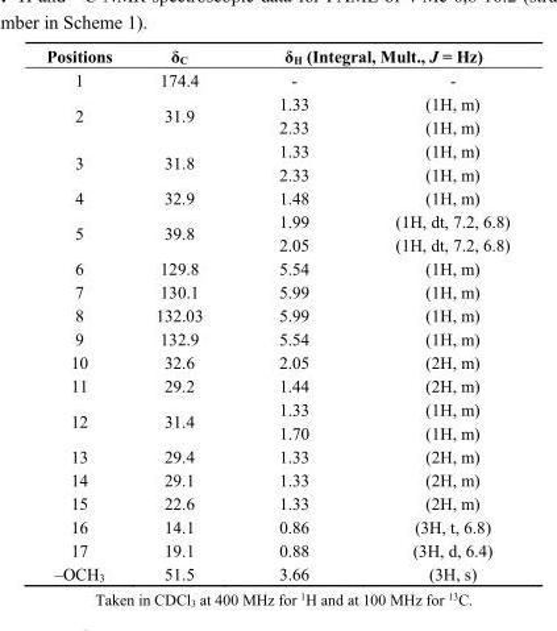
<table><thead><tr><td rowspan="2">Positions 1</td><td rowspan="2">δ<sub>C</sub> 174.4</td><td colspan="2">δ<sub>H</sub> (Integral, Mult., J = Hz)</td></tr><tr><td>-</td><td>-</td></tr></thead><tbody><tr><td rowspan="2">2</td><td rowspan="2">31.9</td><td>1.33</td><td>(1H, m)</td></tr><tr><td>2.33</td><td>(1H, m)</td></tr><tr><td rowspan="2">3</td><td rowspan="2">31.8</td><td>1.33</td><td>(1H, m)</td></tr><tr><td>2.33</td><td>(1H, m)</td></tr><tr><td>4</td><td>32.9</td><td>1.48</td><td>(1H, m)</td></tr><tr><td rowspan="2">5</td><td rowspan="2">39.8</td><td>1.99</td><td>(1H, dt, 7.2, 6.8)</td></tr><tr><td>2.05</td><td>(1H, dt, 7.2, 6.8)</td></tr><tr><td>6</td><td>129.8</td><td>5.54</td><td>(1H, m)</td></tr><tr><td>7</td><td>130.1</td><td>5.99</td><td>(1H, m)</td></tr><tr><td>8</td><td>132.03</td><td>5.99</td><td>(1H, m)</td></tr><tr><td>9</td><td>132.9</td><td>5.54</td><td>(1H, m)</td></tr><tr><td>10</td><td>32.6</td><td>2.05</td><td>(2H, m)</td></tr><tr><td>11</td><td>29.2</td><td>1.44</td><td>(2H, m)</td></tr><tr><td rowspan="2">12</td><td rowspan="2">31.4</td><td>1.33</td><td>(1H, m)</td></tr><tr><td>1.70</td><td>(1H, m)</td></tr><tr><td>13</td><td>29.4</td><td>1.33</td><td>(2H, m)</td></tr><tr><td>14</td><td>29.1</td><td>1.33</td><td>(2H, m)</td></tr><tr><td>15</td><td>22.6</td><td>1.33</td><td>(2H, m)</td></tr><tr><td>16</td><td>14.1</td><td>0.86</td><td>(3H, t, 6.8)</td></tr><tr><td>17</td><td>19.1</td><td>0.88</td><td>(3H, d, 6.4)</td></tr><tr><td>–OCH<sub>3</sub></td><td>51.5</td><td>3.66</td><td>(3H, s)</td></tr></tbody></table>